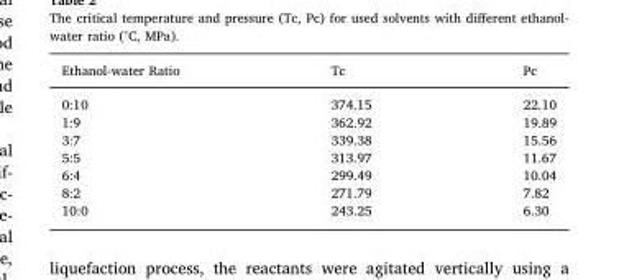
<table><thead><tr><td>Ethanol-water Ratio</td><td>Tc</td><td>Pc</td></tr></thead><tbody><tr><td>0:10</td><td>374.15</td><td>22.10</td></tr><tr><td>1:9</td><td>362.92</td><td>19.89</td></tr><tr><td>3:7</td><td>339.38</td><td>15.56</td></tr><tr><td>5:5</td><td>313.97</td><td>11.67</td></tr><tr><td>6:4</td><td>299.49</td><td>10.04</td></tr><tr><td>8:2</td><td>271.79</td><td>7.82</td></tr><tr><td>10:0</td><td>243.25</td><td>6.30</td></tr></tbody></table>